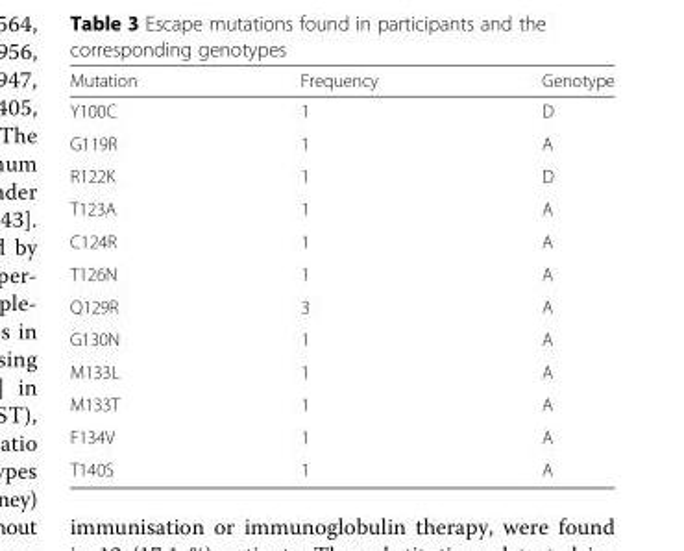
<table><thead><tr><td>Mutation</td><td>Frequency</td><td>Genotype</td></tr></thead><tbody><tr><td>Y100C</td><td>1</td><td>D</td></tr><tr><td>G119R</td><td>1</td><td>A</td></tr><tr><td>R122K</td><td>1</td><td>D</td></tr><tr><td>T123A</td><td>1</td><td>A</td></tr><tr><td>C124R</td><td>1</td><td>A</td></tr><tr><td>T126N</td><td>1</td><td>A</td></tr><tr><td>Q129R</td><td>3</td><td>A</td></tr><tr><td>G130N</td><td>1</td><td>A</td></tr><tr><td>M133L</td><td>1</td><td>A</td></tr><tr><td>M133T</td><td>1</td><td>A</td></tr><tr><td>F134V</td><td>1</td><td>A</td></tr><tr><td>T140S</td><td>1</td><td>A</td></tr></tbody></table>